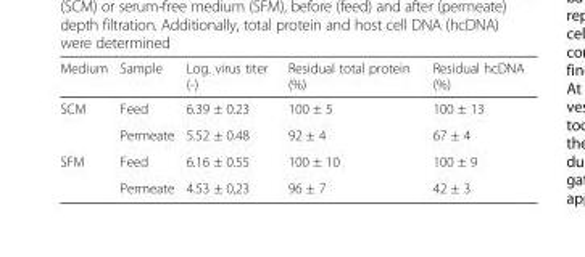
<table><thead><tr><td>Medium</td><td>Sample</td><td>Log. virus titer (-)</td><td>Residual total protein (%)</td><td>Residual hcDNA (%)</td></tr></thead><tbody><tr><td rowspan="2">SCM</td><td>Feed</td><td>6.39 ± 0.23</td><td>100 ± 5</td><td>100 ± 13</td></tr><tr><td>Permeate</td><td>5.52 ± 0.48</td><td>92 ± 4</td><td>67 ± 4</td></tr><tr><td rowspan="2">SFM</td><td>Feed</td><td>6.16 ± 0.55</td><td>100 ± 10</td><td>100 ± 9</td></tr><tr><td>Permeate</td><td>4.53 ± 0,23</td><td>96 ± 7</td><td>42 ± 3</td></tr></tbody></table>